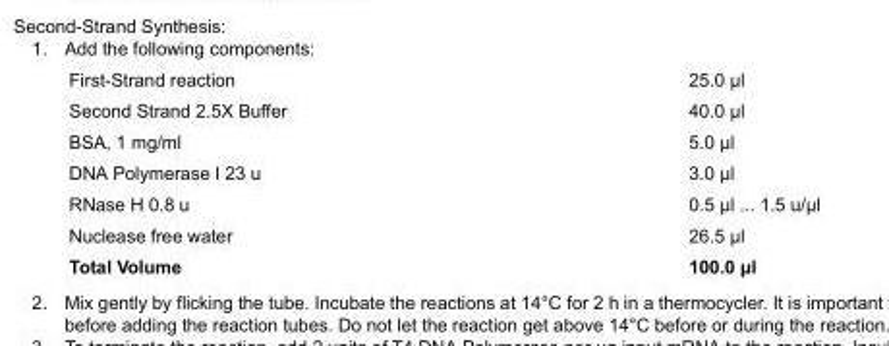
<table><tbody><tr><td>First-Strand reaction</td><td>25.0 μl</td></tr><tr><td>Second Strand 2.5X Buffer</td><td>40.0 μl</td></tr><tr><td>BSA, 1 mg/ml</td><td>5.0 μl</td></tr><tr><td>DNA Polymerase I 23 u</td><td>3.0 μl</td></tr><tr><td>RNase H 0.8 u</td><td>0.5 μl ... 1.5 u/μl</td></tr><tr><td>Nuclease free water</td><td>26.5 μl</td></tr><tr><td>Total Volume</td><td>100.0 μl</td></tr></tbody></table>